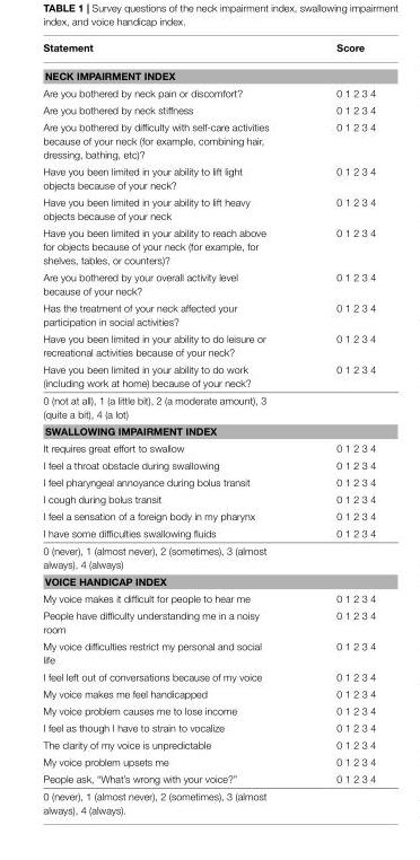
<table><thead><tr><td>Statement</td><td>Score</td></tr></thead><tbody><tr><td colspan="2">NECK IMPAIRMENT INDEX</td></tr><tr><td>Are you bothered by neck pain or discomfort?</td><td>0 1 2 3 4</td></tr><tr><td>Are you bothered by neck stiffness</td><td>0 1 2 3 4</td></tr><tr><td>Are you bothered by difficulty with self-care activities because of your neck (for example, combining hair, dressing, bathing, etc)?</td><td>0 1 2 3 4</td></tr><tr><td>Have you been limited in your ability to lift light objects because of your neck?</td><td>0 1 2 3 4</td></tr><tr><td>Have you been limited in your ability to lift heavy objects because of your neck</td><td>0 1 2 3 4</td></tr><tr><td>Have you been limited in your ability to reach above for objects because of your neck (for example, for shelves, tables, or counters)?</td><td>0 1 2 3 4</td></tr><tr><td>Are you bothered by your overall activity level because of your neck?</td><td>0 1 2 3 4</td></tr><tr><td>Has the treatment of your neck affected your participation in social activities?</td><td>0 1 2 3 4</td></tr><tr><td>Have you been limited in your ability to do leisure or recreational activities because of your neck?</td><td>0 1 2 3 4</td></tr><tr><td>Have you been limited in your ability to do work (including work at home) because of your neck?</td><td>0 1 2 3 4</td></tr><tr><td colspan="2">0 (not at all), 1 (a little bit), 2 (a moderate amount), 3 (quite a bit), 4 (a lot)</td></tr><tr><td colspan="2">SWALLOWING IMPAIRMENT INDEX</td></tr><tr><td>It requires great effort to swallow</td><td>0 1 2 3 4</td></tr><tr><td>I feel a throat obstacle during swallowing</td><td>0 1 2 3 4</td></tr><tr><td>I feel pharyngeal annoyance during bolus transit</td><td>0 1 2 3 4</td></tr><tr><td>I cough during bolus transit</td><td>0 1 2 3 4</td></tr><tr><td>I feel a sensation of a foreign body in my pharynx</td><td>0 1 2 3 4</td></tr><tr><td>I have some difficulties swallowing fluids</td><td>0 1 2 3 4</td></tr><tr><td colspan="2">0 (never), 1 (almost never), 2 (sometimes), 3 (almost always), 4 (always)</td></tr><tr><td colspan="2">VOICE HANDICAP INDEX</td></tr><tr><td>My voice makes it difficult for people to hear me</td><td>0 1 2 3 4</td></tr><tr><td>People have difficulty understanding me in a noisy room</td><td>0 1 2 3 4</td></tr><tr><td>My voice difficulties restrict my personal and social life</td><td>0 1 2 3 4</td></tr><tr><td>I feel left out of conversations because of my voice</td><td>0 1 2 3 4</td></tr><tr><td>My voice makes me feel handicapped</td><td>0 1 2 3 4</td></tr><tr><td>My voice problem causes me to lose income</td><td>0 1 2 3 4</td></tr><tr><td>I feel as though I have to strain to vocalize</td><td>0 1 2 3 4</td></tr><tr><td>The clarity of my voice is unpredictable</td><td>0 1 2 3 4</td></tr><tr><td>My voice problem upsets me</td><td>0 1 2 3 4</td></tr><tr><td>People ask, “What’s wrong with your voice?”</td><td>0 1 2 3 4</td></tr><tr><td>0 (never), 1 (almost never), 2 (sometimes), 3 (almost always), 4 (always).</td><td></td></tr></tbody></table>